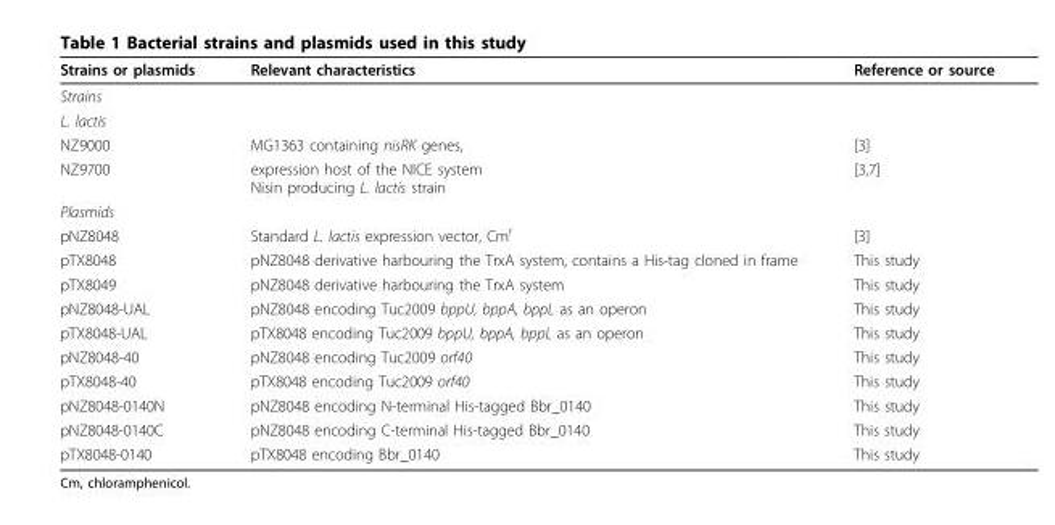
<table><thead><tr><td>Strains or plasmids</td><td>Relevant characteristics</td><td>Reference or source</td></tr></thead><tbody><tr><td colspan="3">Strains</td></tr><tr><td colspan="3">L. lactis</td></tr><tr><td>NZ9000</td><td>MG1363 containing nisRK genes,</td><td>[3]</td></tr><tr><td>NZ9700</td><td>expression host of the NICE system Nisin producing L. lactis strain</td><td>[3,7]</td></tr><tr><td colspan="3">Plasmids</td></tr><tr><td>pNZ8048</td><td>Standard L. lactis expression vector, Cm<sup>r</sup></td><td>[3]</td></tr><tr><td>pTX8048</td><td>pNZ8048 derivative harbouring the TrxA system, contains a His-tag cloned in frame</td><td>This study</td></tr><tr><td>pTX8049</td><td>pNZ8048 derivative harbouring the TrxA system</td><td>This study</td></tr><tr><td>pNZ8048-UAL</td><td>pNZ8048 encoding Tuc2009 bppU, bppA, bppL as an operon</td><td>This study</td></tr><tr><td>pTX8048-UAL</td><td>pTX8048 encoding Tuc2009 bppU, bppA, bppL as an operon</td><td>This study</td></tr><tr><td>pNZ8048-40</td><td>pNZ8048 encoding Tuc2009 orf40</td><td>This study</td></tr><tr><td>pTX8048-40</td><td>pTX8048 encoding Tuc2009 orf40</td><td>This study</td></tr><tr><td>pNZ8048-0140N</td><td>pNZ8048 encoding N-terminal His-tagged Bbr_0140</td><td>This study</td></tr><tr><td>pNZ8048-0140C</td><td>pNZ8048 encoding C-terminal His-tagged Bbr_0140</td><td>This study</td></tr><tr><td>pTX8048-0140</td><td>pTX8048 encoding Bbr_0140</td><td>This study</td></tr></tbody></table>